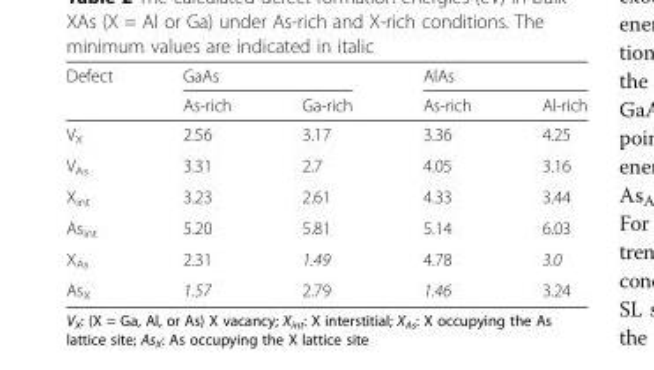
<table><thead><tr><td rowspan="2">Defect</td><td colspan="2">GaAs</td><td colspan="2">AlAs</td></tr><tr><td>As-rich</td><td>Ga-rich</td><td>As-rich</td><td>Al-rich</td></tr></thead><tbody><tr><td>V<sub>X</sub></td><td>2.56</td><td>3.17</td><td>3.36</td><td>4.25</td></tr><tr><td>V<sub>As</sub></td><td>3.31</td><td>2.7</td><td>4.05</td><td>3.16</td></tr><tr><td>X<sub>int</sub></td><td>3.23</td><td>2.61</td><td>4.33</td><td>3.44</td></tr><tr><td>As<sub>int</sub></td><td>5.20</td><td>5.81</td><td>5.14</td><td>6.03</td></tr><tr><td>X<sub>As</sub></td><td>2.31</td><td>1.49</td><td>4.78</td><td>3.0</td></tr><tr><td>As<sub>X</sub></td><td>1.57</td><td>2.79</td><td>1.46</td><td>3.24</td></tr></tbody></table>